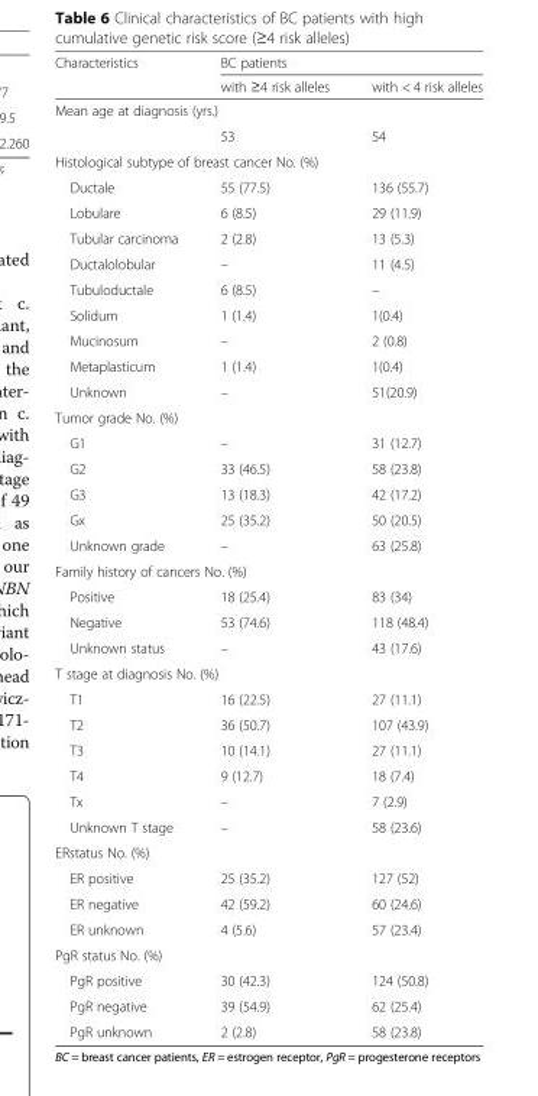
<table><thead><tr><td rowspan="2">Characteristics</td><td colspan="2">BC patients</td></tr><tr><td>with ≥4 risk alleles</td><td>with &lt; 4 risk alleles</td></tr></thead><tbody><tr><td colspan="3">Mean age at diagnosis (yrs.)</td></tr><tr><td></td><td>53</td><td>54</td></tr><tr><td colspan="3">Histological subtype of breast cancer No. (%)</td></tr><tr><td>Ductale</td><td>55 (77.5)</td><td>136 (55.7)</td></tr><tr><td>Lobulare</td><td>6 (8.5)</td><td>29 (11.9)</td></tr><tr><td>Tubular carcinoma</td><td>2 (2.8)</td><td>13 (5.3)</td></tr><tr><td>Ductalolobular</td><td>–</td><td>11 (4.5)</td></tr><tr><td>Tubuloductale</td><td>6 (8.5)</td><td>–</td></tr><tr><td>Solidum</td><td>1 (1.4)</td><td>1(0.4)</td></tr><tr><td>Mucinosum</td><td>–</td><td>2 (0.8)</td></tr><tr><td>Metaplasticum</td><td>1 (1.4)</td><td>1(0.4)</td></tr><tr><td>Unknown</td><td>–</td><td>51(20.9)</td></tr><tr><td colspan="3">Tumor grade No. (%)</td></tr><tr><td>G1</td><td>–</td><td>31 (12.7)</td></tr><tr><td>G2</td><td>33 (46.5)</td><td>58 (23.8)</td></tr><tr><td>G3</td><td>13 (18.3)</td><td>42 (17.2)</td></tr><tr><td>Gx</td><td>25 (35.2)</td><td>50 (20.5)</td></tr><tr><td>Unknown grade</td><td>–</td><td>63 (25.8)</td></tr><tr><td colspan="3">Family history of cancers No. (%)</td></tr><tr><td>Positive</td><td>18 (25.4)</td><td>83 (34)</td></tr><tr><td>Negative</td><td>53 (74.6)</td><td>118 (48.4)</td></tr><tr><td>Unknown status</td><td>–</td><td>43 (17.6)</td></tr><tr><td colspan="3">T stage at diagnosis No. (%)</td></tr><tr><td>T1</td><td>16 (22.5)</td><td>27 (11.1)</td></tr><tr><td>T2</td><td>36 (50.7)</td><td>107 (43.9)</td></tr><tr><td>T3</td><td>10 (14.1)</td><td>27 (11.1)</td></tr><tr><td>T4</td><td>9 (12.7)</td><td>18 (7.4)</td></tr><tr><td>Tx</td><td>–</td><td>7 (2.9)</td></tr><tr><td>Unknown T stage</td><td>–</td><td>58 (23.6)</td></tr><tr><td colspan="3">ERstatus No. (%)</td></tr><tr><td>ER positive</td><td>25 (35.2)</td><td>127 (52)</td></tr><tr><td>ER negative</td><td>42 (59.2)</td><td>60 (24.6)</td></tr><tr><td>ER unknown</td><td>4 (5.6)</td><td>57 (23.4)</td></tr><tr><td colspan="3">PgR status No. (%)</td></tr><tr><td>PgR positive</td><td>30 (42.3)</td><td>124 (50.8)</td></tr><tr><td>PgR negative</td><td>39 (54.9)</td><td>62 (25.4)</td></tr><tr><td>PgR unknown</td><td>2 (2.8)</td><td>58 (23.8)</td></tr></tbody></table>